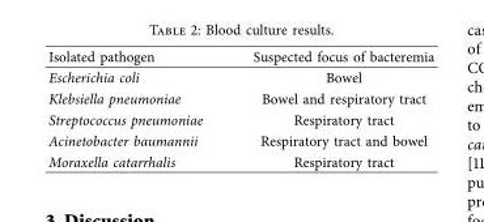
<table><thead><tr><td>Isolated pathogen</td><td>Suspected focus of bacteremia</td></tr></thead><tbody><tr><td>Escherichia coli</td><td>Bowel</td></tr><tr><td>Klebsiella pneumoniae</td><td>Bowel and respiratory tract</td></tr><tr><td>Streptococcus pneumoniae</td><td>Respiratory tract</td></tr><tr><td>Acinetobacter baumannii</td><td>Respiratory tract and bowel</td></tr><tr><td>Moraxella catarrhalis</td><td>Respiratory tract</td></tr></tbody></table>